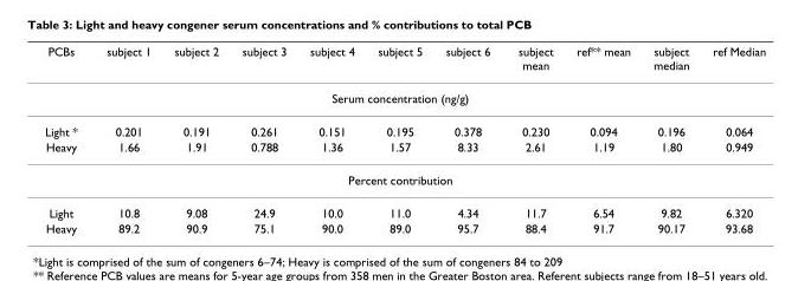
<table><thead><tr><td>PCBs</td><td>subject 1</td><td>subject 2</td><td>subject 3</td><td>subject 4</td><td>subject 5</td><td>subject 6</td><td>subject mean</td><td>ref** mean</td><td>subject median</td><td>ref Median</td></tr></thead><tbody><tr><td colspan="11">Serum concentration (ng/g)</td></tr><tr><td>Light *</td><td>0.201</td><td>0.191</td><td>0.261</td><td>0.151</td><td>0.195</td><td>0.378</td><td>0.230</td><td>0.094</td><td>0.196</td><td>0.064</td></tr><tr><td>Heavy</td><td>1.66</td><td>1.91</td><td>0.788</td><td>1.36</td><td>1.57</td><td>8.33</td><td>2.61</td><td>1.19</td><td>1.80</td><td>0.949</td></tr><tr><td colspan="11">Percent contribution</td></tr><tr><td>Light</td><td>10.8</td><td>9.08</td><td>24.9</td><td>10.0</td><td>11.0</td><td>4.34</td><td>11.7</td><td>6.54</td><td>9.82</td><td>6.320</td></tr><tr><td>Heavy</td><td>89.2</td><td>90.9</td><td>75.1</td><td>90.0</td><td>89.0</td><td>95.7</td><td>88.4</td><td>91.7</td><td>90.17</td><td>93.68</td></tr></tbody></table>